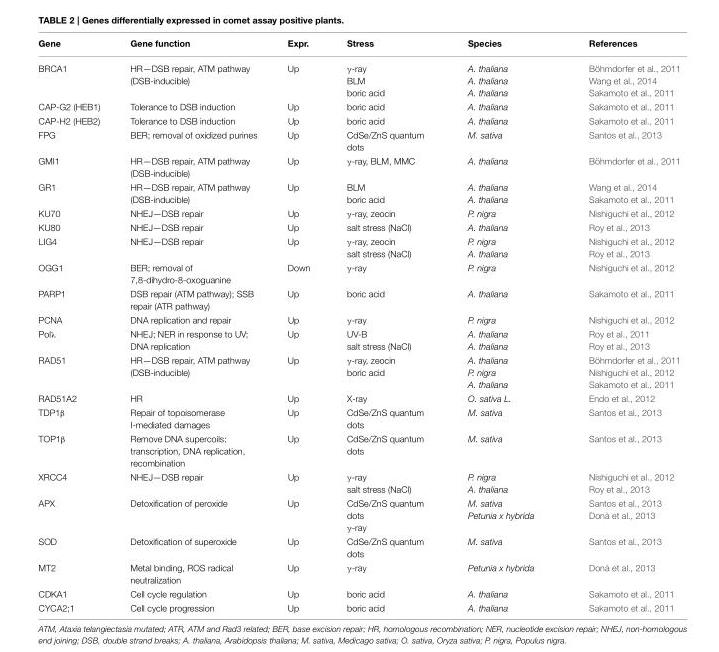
<table><thead><tr><td>Gene</td><td>Gene function</td><td>Expr.</td><td>Stress</td><td>Species</td><td>References</td></tr></thead><tbody><tr><td>BRCA1</td><td>HR—DSB repair, ATM pathway (DSB-inducible)</td><td>Up</td><td>γ-ray BLM boric acid</td><td>A. thaliana A. thaliana A. thaliana</td><td>Böhmdorfer et al., 2011 Wang et al., 2014 Sakamoto et al., 2011</td></tr><tr><td>CAP-G2 (HEB1)</td><td>Tolerance to DSB induction</td><td>Up</td><td>boric acid</td><td>A. thaliana</td><td>Sakamoto et al., 2011</td></tr><tr><td>CAP-H2 (HEB2)</td><td>Tolerance to DSB induction</td><td>Up</td><td>boric acid</td><td>A. thaliana</td><td>Sakamoto et al., 2011</td></tr><tr><td>FPG</td><td>BER; removal of oxidized purines</td><td>Up</td><td>CdSe/ZnS quantum dots</td><td>M. sativa</td><td>Santos et al., 2013</td></tr><tr><td>GMI1</td><td>HR—DSB repair, ATM pathway (DSB-inducible)</td><td>Up</td><td>γ-ray, BLM, MMC</td><td>A. thaliana</td><td>Böhmdorfer et al., 2011</td></tr><tr><td>GR1</td><td>HR—DSB repair, ATM pathway (DSB-inducible)</td><td>Up</td><td>BLM boric acid</td><td>A. thaliana A. thaliana</td><td>Wang et al., 2014 Sakamoto et al., 2011</td></tr><tr><td>KU70</td><td>NHEJ—DSB repair</td><td>Up</td><td>γ-ray, zeocin</td><td>P. nigra</td><td>Nishiguchi et al., 2012</td></tr><tr><td>KU80</td><td>NHEJ—DSB repair</td><td>Up</td><td>salt stress (NaCl)</td><td>A. thaliana</td><td>Roy et al., 2013</td></tr><tr><td>LIG4</td><td>NHEJ—DSB repair</td><td>Up</td><td>γ-ray, zeocin salt stress (NaCl)</td><td>P. nigra A. thaliana</td><td>Nishiguchi et al., 2012 Roy et al., 2013</td></tr><tr><td>OGG1</td><td>BER; removal of 7,8-dihydro-8-oxoguanine</td><td>Down</td><td>γ-ray</td><td>P. nigra</td><td>Nishiguchi et al., 2012</td></tr><tr><td>PARP1</td><td>DSB repair (ATM pathway); SSB repair (ATR pathway)</td><td>Up</td><td>boric acid</td><td>A. thaliana</td><td>Sakamoto et al., 2011</td></tr><tr><td>PCNA</td><td>DNA replication and repair</td><td>Up</td><td>γ-ray</td><td>P. nigra</td><td>Nishiguchi et al., 2012</td></tr><tr><td>Polλ</td><td>NHEJ; NER in response to UV; DNA replication</td><td>Up</td><td>UV-B salt stress (NaCl)</td><td>A. thaliana A. thaliana</td><td>Roy et al., 2011 Roy et al., 2013</td></tr><tr><td>RAD51</td><td>HR—DSB repair, ATM pathway (DSB-inducible)</td><td>Up</td><td>γ-ray, zeocin boric acid</td><td>A. thaliana P. nigra A. thaliana</td><td>Böhmdorfer et al., 2011 Nishiguchi et al., 2012 Sakamoto et al., 2011</td></tr><tr><td>RAD51A2</td><td>HR</td><td>Up</td><td>X-ray</td><td>O. sativa L.</td><td>Endo et al., 2012</td></tr><tr><td>TDP1β</td><td>Repair of topoisomerase I-mediated damages</td><td>Up</td><td>CdSe/ZnS quantum dots</td><td>M. sativa</td><td>Santos et al., 2013</td></tr><tr><td>TOP1β</td><td>Remove DNA supercoils: transcription, DNA replication, recombination</td><td>Up</td><td>CdSe/ZnS quantum dots</td><td>M. sativa</td><td>Santos et al., 2013</td></tr><tr><td>XRCC4</td><td>NHEJ—DSB repair</td><td>Up</td><td>γ-ray salt stress (NaCl)</td><td>P. nigra A. thaliana</td><td>Nishiguchi et al., 2012 Roy et al., 2013</td></tr><tr><td>APX</td><td>Detoxification of peroxide</td><td>Up</td><td>CdSe/ZnS quantum dots γ-ray</td><td>M. sativa Petunia x hybrida</td><td>Santos et al., 2013 Donà et al., 2013</td></tr><tr><td>SOD</td><td>Detoxification of superoxide</td><td>Up</td><td>CdSe/ZnS quantum dots</td><td>M. sativa</td><td>Santos et al., 2013</td></tr><tr><td>MT2</td><td>Metal binding, ROS radical neutralization</td><td>Up</td><td>γ-ray</td><td>Petunia x hybrida</td><td>Donà et al., 2013</td></tr><tr><td>CDKA1</td><td>Cell cycle regulation</td><td>Up</td><td>boric acid</td><td>A. thaliana</td><td>Sakamoto et al., 2011</td></tr><tr><td>CYCA2;1</td><td>Cell cycle progression</td><td>Up</td><td>boric acid</td><td>A. thaliana</td><td>Sakamoto et al., 2011</td></tr></tbody></table>